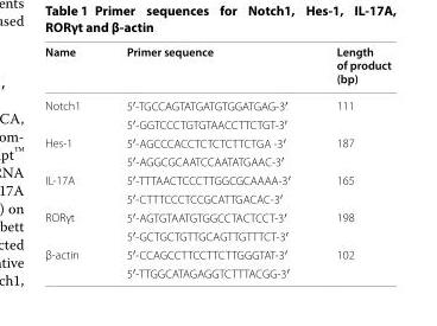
<table><thead><tr><td>Name</td><td>Primer sequence</td><td>Length of product (bp)</td></tr></thead><tbody><tr><td rowspan="2">Notch1</td><td>5′-TGC CAG TAT GAT GTG GAT GAG-3′</td><td rowspan="2">111</td></tr><tr><td>5′-GGT CCC TGT GTA ACC TTC TGT-3′</td></tr><tr><td rowspan="2">Hes-1</td><td>5′-AGC CCA CCT CTC TCT TCT GA -3′</td><td rowspan="2">187</td></tr><tr><td>5′-AGG CGC AAT CCA ATA TGA AC-3′</td></tr><tr><td rowspan="2">IL-17A</td><td>5′-TTT AAC TCC CTT GGC GCA AAA-3′</td><td rowspan="2">165</td></tr><tr><td>5′-CTT TCC CTC CGC ATT GAC AC-3′</td></tr><tr><td rowspan="2">RORγt</td><td>5′-AGT GTA ATG TGG CCT ACT CCT-3′</td><td rowspan="2">198</td></tr><tr><td>5′-GCT GCT GTT GCA GTT GTT TCT-3′</td></tr><tr><td rowspan="2">β-actin</td><td>5′-CCA GCC TTC CTT CTT GGG TAT-3′</td><td rowspan="2">102</td></tr><tr><td>5′-TTG GCA TAG AGG TCT TTA CGG-3′</td></tr></tbody></table>